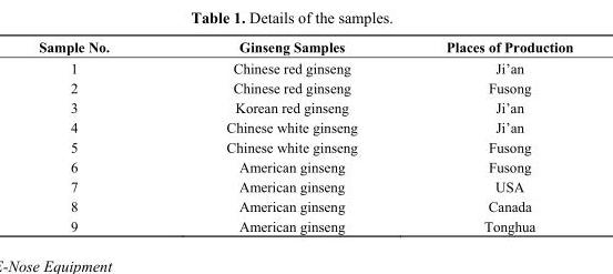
<table><thead><tr><td>Sample No.</td><td>Ginseng Samples</td><td>Places of Production</td></tr></thead><tbody><tr><td>1</td><td>Chinese red ginseng</td><td>Ji’an</td></tr><tr><td>2</td><td>Chinese red ginseng</td><td>Fusong</td></tr><tr><td>3</td><td>Korean red ginseng</td><td>Ji’an</td></tr><tr><td>4</td><td>Chinese white ginseng</td><td>Ji’an</td></tr><tr><td>5</td><td>Chinese white ginseng</td><td>Fusong</td></tr><tr><td>6</td><td>American ginseng</td><td>Fusong</td></tr><tr><td>7</td><td>American ginseng</td><td>USA</td></tr><tr><td>8</td><td>American ginseng</td><td>Canada</td></tr><tr><td>9</td><td>American ginseng</td><td>Tonghua</td></tr></tbody></table>